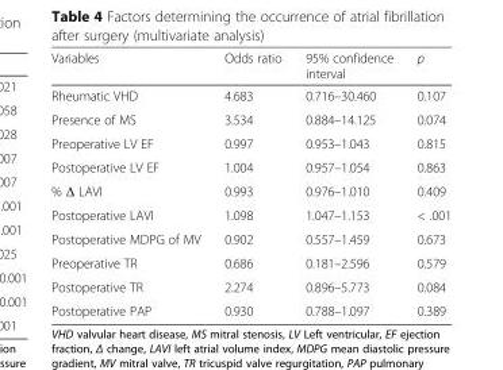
<table><thead><tr><td>Variables</td><td>Odds ratio</td><td>95% confidence interval</td><td>p</td></tr></thead><tbody><tr><td>Rheumatic VHD</td><td>4.683</td><td>0.716–30.460</td><td>0.107</td></tr><tr><td>Presence of MS</td><td>3.534</td><td>0.884–14.125</td><td>0.074</td></tr><tr><td>Preoperative LV EF</td><td>0.997</td><td>0.953–1.043</td><td>0.815</td></tr><tr><td>Postoperative LV EF</td><td>1.004</td><td>0.957–1.054</td><td>0.863</td></tr><tr><td>% Δ LAVI</td><td>0.993</td><td>0.976–1.010</td><td>0.409</td></tr><tr><td>Postoperative LAVI</td><td>1.098</td><td>1.047–1.153</td><td>&lt; .001</td></tr><tr><td>Postoperative MDPG of MV</td><td>0.902</td><td>0.557–1.459</td><td>0.673</td></tr><tr><td>Preoperative TR</td><td>0.686</td><td>0.181–2.596</td><td>0.579</td></tr><tr><td>Postoperative TR</td><td>2.274</td><td>0.896–5.773</td><td>0.084</td></tr><tr><td>Postoperative PAP</td><td>0.930</td><td>0.788–1.097</td><td>0.389</td></tr></tbody></table>